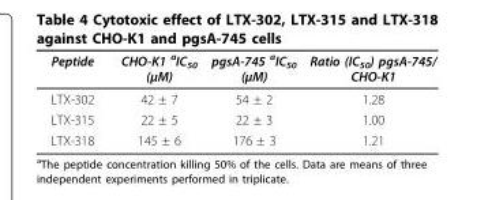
<table><thead><tr><td>Peptide</td><td>CHO-K1 <sup>a</sup>IC<sub>50</sub> (μM)</td><td>pgsA-745 <sup>a</sup>IC<sub>50</sub> (μM)</td><td>Ratio (IC<sub>50</sub>) pgsA-745/ CHO-K1</td></tr></thead><tbody><tr><td>LTX-302</td><td>42 ± 7</td><td>54 ± 2</td><td>1.28</td></tr><tr><td>LTX-315</td><td>22 ± 5</td><td>22 ± 3</td><td>1.00</td></tr><tr><td>LTX-318</td><td>145 ± 6</td><td>176 ± 3</td><td>1.21</td></tr></tbody></table>